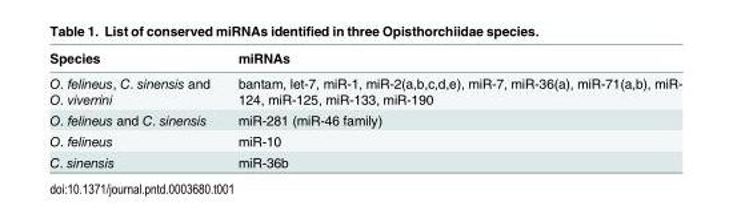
<table><thead><tr><td>Species</td><td>miRNAs</td></tr></thead><tbody><tr><td>O. felineus, C. sinensis and O. viverrini</td><td>bantam, let-7, miR-1, miR-2(a,b,c,d,e), miR-7, miR-36(a), miR-71(a,b), miR- 124, miR-125, miR-133, miR-190</td></tr><tr><td>O. felineus and C. sinensis</td><td>miR-281 (miR-46 family)</td></tr><tr><td>O. felineus</td><td>miR-10</td></tr><tr><td>C. sinensis</td><td>miR-36b</td></tr></tbody></table>